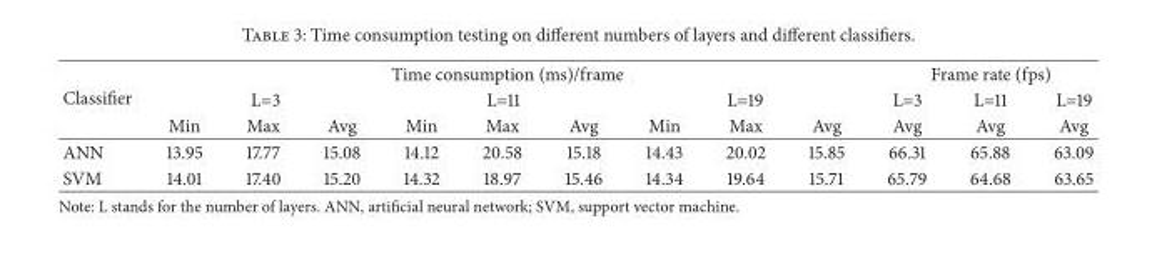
<table><thead><tr><td rowspan="3">Classifier</td><td colspan="9">Time consumption (ms)/frame</td><td colspan="3">Frame rate (fps)</td></tr><tr><td colspan="3">L=3</td><td colspan="3">L=11</td><td colspan="3">L=19</td><td rowspan="2">L=3 Avg</td><td rowspan="2">L=11 Avg</td><td rowspan="2">L=19 Avg</td></tr><tr><td>Min</td><td>Max</td><td>Avg</td><td>Min</td><td>Max</td><td>Avg</td><td>Min</td><td>Max</td><td>Avg</td></tr></thead><tbody><tr><td>ANN</td><td>13.95</td><td>17.77</td><td>15.08</td><td>14.12</td><td>20.58</td><td>15.18</td><td>14.43</td><td>20.02</td><td>15.85</td><td>66.31</td><td>65.88</td><td>63.09</td></tr><tr><td>SVM</td><td>14.01</td><td>17.40</td><td>15.20</td><td>14.32</td><td>18.97</td><td>15.46</td><td>14.34</td><td>19.64</td><td>15.71</td><td>65.79</td><td>64.68</td><td>63.65</td></tr></tbody></table>